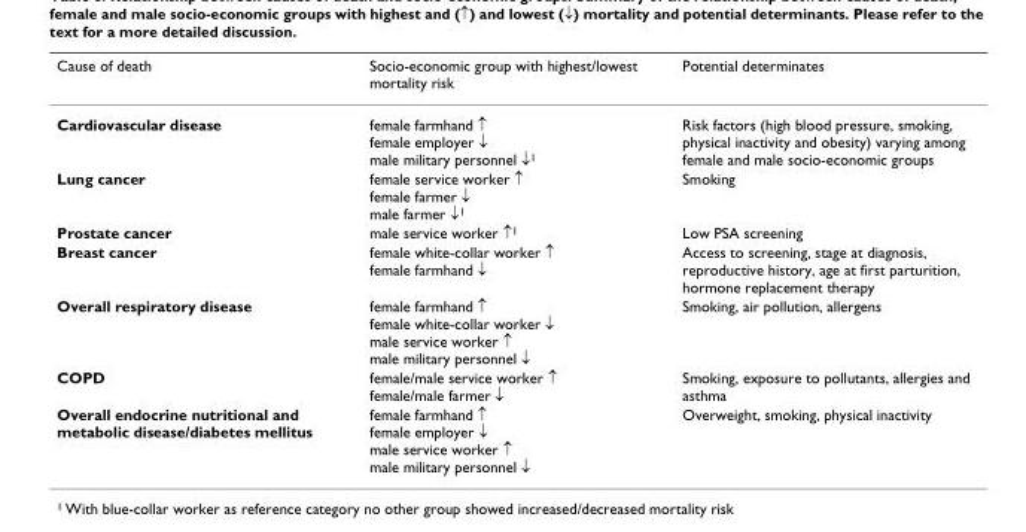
<table><thead><tr><td>Cause of death</td><td>Socio-economic group with highest/lowest mortality risk</td><td>Potential determinates</td></tr></thead><tbody><tr><td>Cardiovascular disease</td><td>female farmhand ↑ female employer ↓ male military personnel ↓<sup>1</sup></td><td>Risk factors (high blood pressure, smoking, physical inactivity and obesity) varying among female and male socio-economic groups</td></tr><tr><td>Lung cancer</td><td>female service worker ↑ female farmer ↓ male farmer ↓<sup>1</sup></td><td>Smoking</td></tr><tr><td>Prostate cancer</td><td>male service worker ↑<sup>1</sup></td><td>Low PSA screening</td></tr><tr><td>Breast cancer</td><td>female white-collar worker ↑ female farmhand ↓</td><td>Access to screening, stage at diagnosis, reproductive history, age at first parturition, hormone replacement therapy</td></tr><tr><td>Overall respiratory disease</td><td>female farmhand ↑ female white-collar worker ↓ male service worker ↑ male military personnel ↓</td><td>Smoking, air pollution, allergens</td></tr><tr><td>COPD</td><td>female/male service worker ↑ female/male farmer ↓</td><td>Smoking, exposure to pollutants, allergies and asthma</td></tr><tr><td>Overall endocrine nutritional and metabolic disease/diabetes mellitus</td><td>female farmhand ↑ female employer ↓ male service worker ↑ male military personnel ↓</td><td>Overweight, smoking, physical inactivity</td></tr></tbody></table>